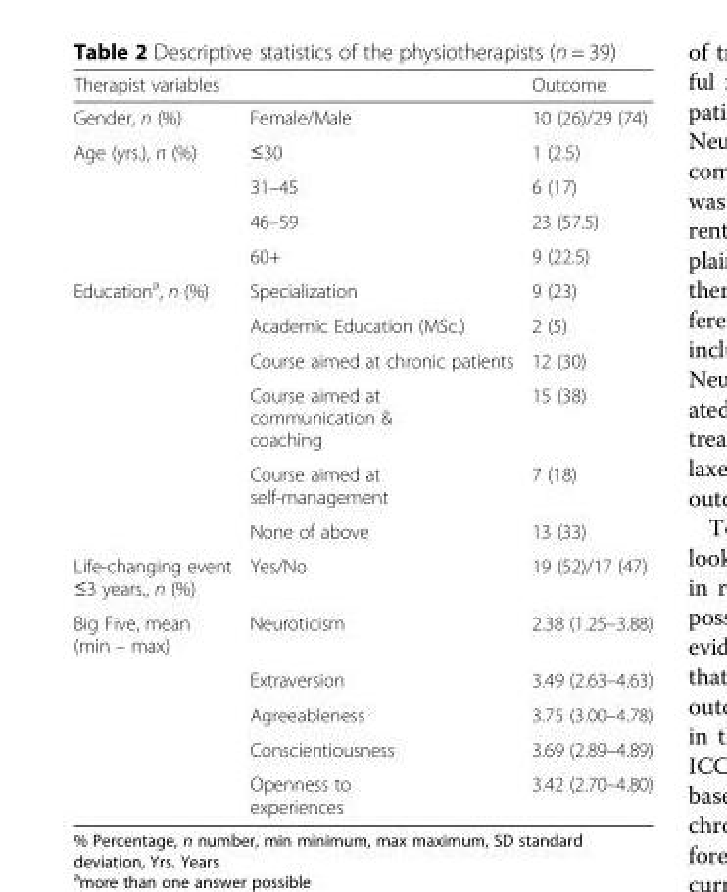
<table><thead><tr><td>Therapist variables</td><td></td><td>Outcome</td></tr></thead><tbody><tr><td>Gender, n (%)</td><td>Female/Male</td><td>10 (26)/29 (74)</td></tr><tr><td rowspan="4">Age (yrs.), n (%)</td><td>≤30</td><td>1 (2.5)</td></tr><tr><td>31–45</td><td>6 (17)</td></tr><tr><td>46–59</td><td>23 (57.5)</td></tr><tr><td>60+</td><td>9 (22.5)</td></tr><tr><td rowspan="6">Education<sup>a</sup>, n (%)</td><td>Specialization</td><td>9 (23)</td></tr><tr><td>Academic Education (MSc.)</td><td>2 (5)</td></tr><tr><td>Course aimed at chronic patients</td><td>12 (30)</td></tr><tr><td>Course aimed at communication &amp; coaching</td><td>15 (38)</td></tr><tr><td>Course aimed at self-management</td><td>7 (18)</td></tr><tr><td>None of above</td><td>13 (33)</td></tr><tr><td>Life-changing event ≤3 years., n (%)</td><td>Yes/No</td><td>19 (52)/17 (47)</td></tr><tr><td rowspan="5">Big Five, mean (min – max)</td><td>Neuroticism</td><td>2.38 (1.25–3.88)</td></tr><tr><td>Extraversion</td><td>3.49 (2.63–4.63)</td></tr><tr><td>Agreeableness</td><td>3.75 (3.00–4.78)</td></tr><tr><td>Conscientiousness</td><td>3.69 (2.89–4.89)</td></tr><tr><td>Openness to experiences</td><td>3.42 (2.70–4.80)</td></tr></tbody></table>